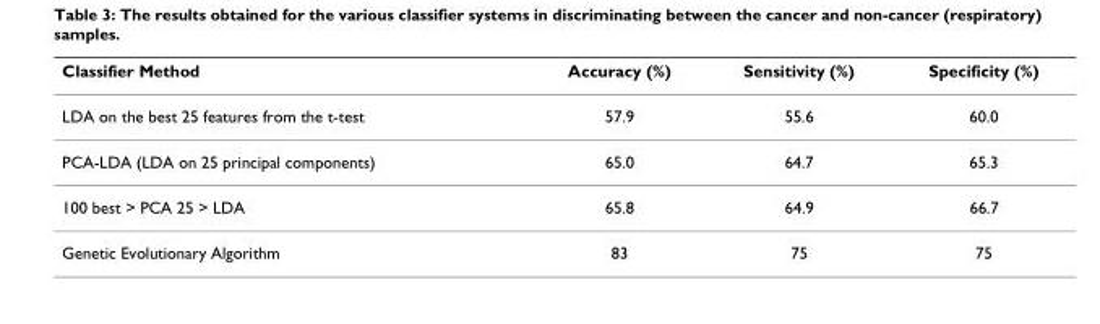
<table><thead><tr><td>Classifier Method</td><td>Accuracy (%)</td><td>Sensitivity (%)</td><td>Specificity (%)</td></tr></thead><tbody><tr><td>LDA on the best 25 features from the t-test</td><td>57.9</td><td>55.6</td><td>60.0</td></tr><tr><td>PCA-LDA (LDA on 25 principal components)</td><td>65.0</td><td>64.7</td><td>65.3</td></tr><tr><td>100 best &gt; PCA 25 &gt; LDA</td><td>65.8</td><td>64.9</td><td>66.7</td></tr><tr><td>Genetic Evolutionary Algorithm</td><td>83</td><td>75</td><td>75</td></tr></tbody></table>